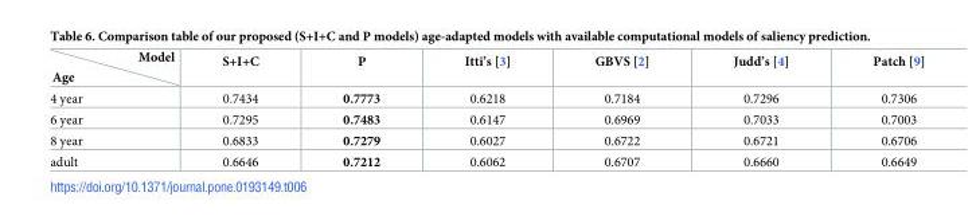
<table><thead><tr><td>Age Model</td><td>S+I+C</td><td>P</td><td>Itti’s [3]</td><td>GBVS [2]</td><td>Judd’s [4]</td><td>Patch [9]</td></tr></thead><tbody><tr><td>4 year</td><td>0.7434</td><td>0.7773</td><td>0.6218</td><td>0.7184</td><td>0.7296</td><td>0.7306</td></tr><tr><td>6 year</td><td>0.7295</td><td>0.7483</td><td>0.6147</td><td>0.6969</td><td>0.7033</td><td>0.7003</td></tr><tr><td>8 year</td><td>0.6833</td><td>0.7279</td><td>0.6027</td><td>0.6722</td><td>0.6721</td><td>0.6706</td></tr><tr><td>adult</td><td>0.6646</td><td>0.7212</td><td>0.6062</td><td>0.6707</td><td>0.6660</td><td>0.6649</td></tr></tbody></table>